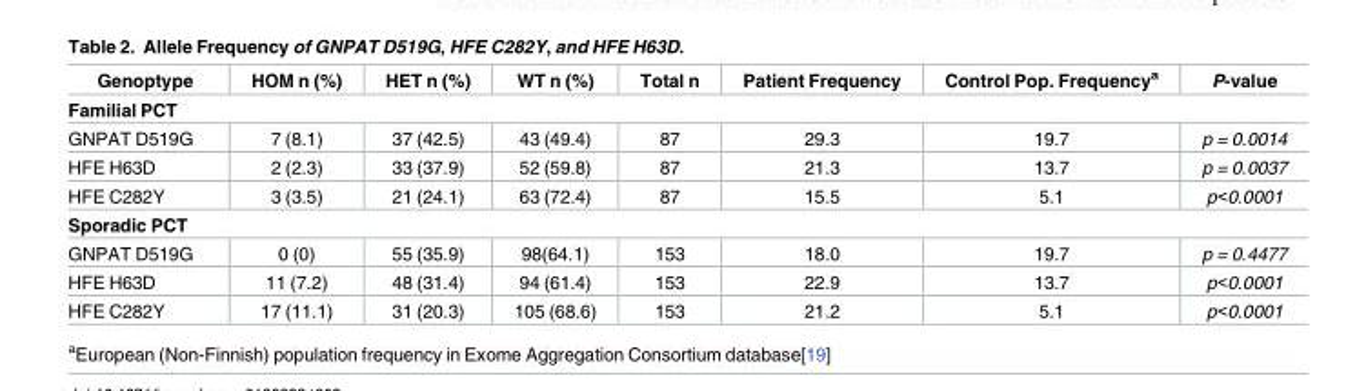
<table><thead><tr><td>Genoptype</td><td>HOM n (%)</td><td>HET n (%)</td><td>WT n (%)</td><td>Total n</td><td>Patient Frequency</td><td>Control Pop. Frequency<sup>a</sup></td><td>P-value</td></tr></thead><tbody><tr><td colspan="8">Familial PCT</td></tr><tr><td>GNPAT D519G</td><td>7 (8.1)</td><td>37 (42.5)</td><td>43 (49.4)</td><td>87</td><td>29.3</td><td>19.7</td><td>p = 0.0014</td></tr><tr><td>HFE H63D</td><td>2 (2.3)</td><td>33 (37.9)</td><td>52 (59.8)</td><td>87</td><td>21.3</td><td>13.7</td><td>p = 0.0037</td></tr><tr><td>HFE C282Y</td><td>3 (3.5)</td><td>21 (24.1)</td><td>63 (72.4)</td><td>87</td><td>15.5</td><td>5.1</td><td>p&lt;0.0001</td></tr><tr><td colspan="8">Sporadic PCT</td></tr><tr><td>GNPAT D519G</td><td>0 (0)</td><td>55 (35.9)</td><td>98(64.1)</td><td>153</td><td>18.0</td><td>19.7</td><td>p = 0.4477</td></tr><tr><td>HFE H63D</td><td>11 (7.2)</td><td>48 (31.4)</td><td>94 (61.4)</td><td>153</td><td>22.9</td><td>13.7</td><td>p&lt;0.0001</td></tr><tr><td>HFE C282Y</td><td>17 (11.1)</td><td>31 (20.3)</td><td>105 (68.6)</td><td>153</td><td>21.2</td><td>5.1</td><td>p&lt;0.0001</td></tr></tbody></table>